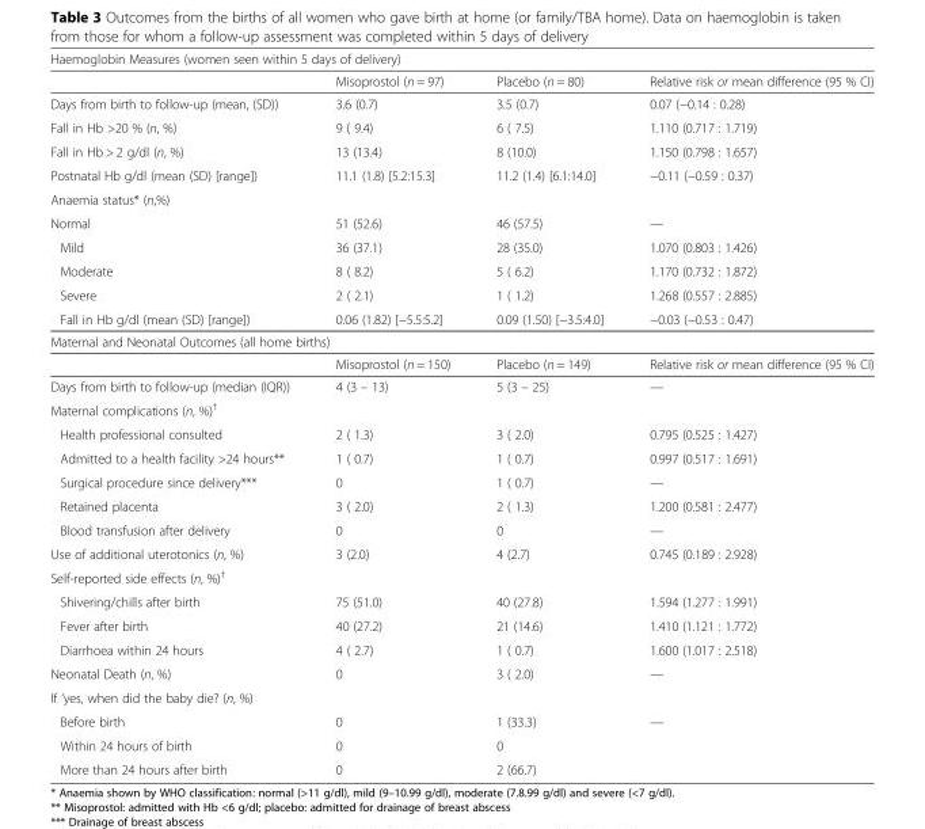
<table><thead><tr><td colspan="4">Haemoglobin Measures (women seen within 5 days of delivery)</td></tr><tr><td></td><td>Misoprostol (n = 97)</td><td>Placebo (n = 80)</td><td>Relative risk or mean difference (95 % CI)</td></tr></thead><tbody><tr><td>Days from birth to follow-up (mean, (SD))</td><td>3.6 (0.7)</td><td>3.5 (0.7)</td><td>0.07 (−0.14 : 0.28)</td></tr><tr><td>Fall in Hb &gt;20 % (n, %)</td><td>9 ( 9.4)</td><td>6 ( 7.5)</td><td>1.110 (0.717 : 1.719)</td></tr><tr><td>Fall in Hb &gt; 2 g/dl (n, %)</td><td>13 (13.4)</td><td>8 (10.0)</td><td>1.150 (0.798 : 1.657)</td></tr><tr><td>Postnatal Hb g/dl (mean (SD) [range])</td><td>11.1 (1.8) [5.2:15.3]</td><td>11.2 (1.4) [6.1:14.0]</td><td>−0.11 (−0.59 : 0.37)</td></tr><tr><td colspan="4">Anaemia status* (n,%)</td></tr><tr><td>Normal</td><td>51 (52.6)</td><td>46 (57.5)</td><td>—</td></tr><tr><td>Mild</td><td>36 (37.1)</td><td>28 (35.0)</td><td>1.070 (0.803 : 1.426)</td></tr><tr><td>Moderate</td><td>8 ( 8.2)</td><td>5 ( 6.2)</td><td>1.170 (0.732 : 1.872)</td></tr><tr><td>Severe</td><td>2 ( 2.1)</td><td>1 ( 1.2)</td><td>1.268 (0.557 : 2.885)</td></tr><tr><td>Fall in Hb g/dl (mean (SD) [range])</td><td>0.06 (1.82) [−5.5:5.2]</td><td>0.09 (1.50) [−3.5:4.0]</td><td>−0.03 (−0.53 : 0.47)</td></tr><tr><td colspan="4">Maternal and Neonatal Outcomes (all home births)</td></tr><tr><td></td><td>Misoprostol (n = 150)</td><td>Placebo (n = 149)</td><td>Relative risk or mean difference (95 % CI)</td></tr><tr><td>Days from birth to follow-up (median (IQR))</td><td>4 (3 – 13)</td><td>5 (3 – 25)</td><td>—</td></tr><tr><td colspan="4">Maternal complications (n, %)<sup>†</sup></td></tr><tr><td>Health professional consulted</td><td>2 ( 1.3)</td><td>3 ( 2.0)</td><td>0.795 (0.525 : 1.427)</td></tr><tr><td>Admitted to a health facility &gt;24 hours**</td><td>1 ( 0.7)</td><td>1 ( 0.7)</td><td>0.997 (0.517 : 1.691)</td></tr><tr><td>Surgical procedure since delivery***</td><td>0</td><td>1 ( 0.7)</td><td>—</td></tr><tr><td>Retained placenta</td><td>3 ( 2.0)</td><td>2 ( 1.3)</td><td>1.200 (0.581 : 2.477)</td></tr><tr><td>Blood transfusion after delivery</td><td>0</td><td>0</td><td>—</td></tr><tr><td>Use of additional uterotonics (n, %)</td><td>3 (2.0)</td><td>4 (2.7)</td><td>0.745 (0.189 : 2.928)</td></tr><tr><td colspan="4">Self-reported side effects (n, %)<sup>†</sup></td></tr><tr><td>Shivering/chills after birth</td><td>75 (51.0)</td><td>40 (27.8)</td><td>1.594 (1.277 : 1.991)</td></tr><tr><td>Fever after birth</td><td>40 (27.2)</td><td>21 (14.6)</td><td>1.410 (1.121 : 1.772)</td></tr><tr><td>Diarrhoea within 24 hours</td><td>4 ( 2.7)</td><td>1 ( 0.7)</td><td>1.600 (1.017 : 2.518)</td></tr><tr><td>Neonatal Death (n, %)</td><td>0</td><td>3 ( 2.0)</td><td>—</td></tr><tr><td colspan="4">If ‘yes, when did the baby die? (n, %)</td></tr><tr><td>Before birth</td><td>0</td><td>1 (33.3)</td><td rowspan="3">—</td></tr><tr><td>Within 24 hours of birth</td><td>0</td><td>0</td></tr><tr><td>More than 24 hours after birth</td><td>0</td><td>2 (66.7)</td></tr></tbody></table>